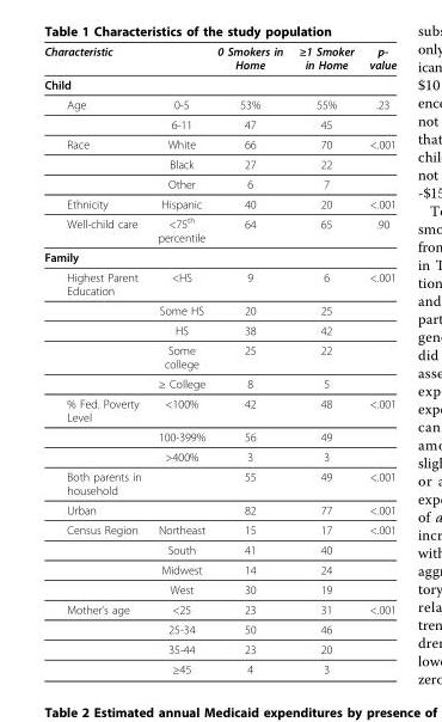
<table><thead><tr><td>Characteristic</td><td></td><td>0 Smokers in Home</td><td>≥1 Smoker in Home</td><td>p- value</td></tr></thead><tbody><tr><td colspan="5">Child</td></tr><tr><td rowspan="2">Age</td><td>0-5</td><td>53%</td><td>55%</td><td>.23</td></tr><tr><td>6-11</td><td>47</td><td>45</td><td></td></tr><tr><td rowspan="3">Race</td><td>White</td><td>66</td><td>70</td><td>&lt;.001</td></tr><tr><td>Black</td><td>27</td><td>22</td><td></td></tr><tr><td>Other</td><td>6</td><td>7</td><td></td></tr><tr><td>Ethnicity</td><td>Hispanic</td><td>40</td><td>20</td><td>&lt;.001</td></tr><tr><td>Well-child care</td><td>&lt;75<sup>th</sup> percentile</td><td>64</td><td>65</td><td>.90</td></tr><tr><td colspan="5">Family</td></tr><tr><td rowspan="5">Highest Parent Education</td><td>&lt;HS</td><td>9</td><td>6</td><td>&lt;.001</td></tr><tr><td>Some HS</td><td>20</td><td>25</td><td></td></tr><tr><td>HS</td><td>38</td><td>42</td><td></td></tr><tr><td>Some college</td><td>25</td><td>22</td><td></td></tr><tr><td>≥ College</td><td>8</td><td>5</td><td></td></tr><tr><td rowspan="3">% Fed. Poverty Level</td><td>&lt;100%</td><td>42</td><td>48</td><td>&lt;.001</td></tr><tr><td>100-399%</td><td>56</td><td>49</td><td></td></tr><tr><td>&gt;400%</td><td>3</td><td>3</td><td></td></tr><tr><td>Both parents in household</td><td></td><td>55</td><td>49</td><td>&lt;.001</td></tr><tr><td>Urban</td><td></td><td>82</td><td>77</td><td>&lt;.001</td></tr><tr><td rowspan="4">Census Region</td><td>Northeast</td><td>15</td><td>17</td><td>&lt;.001</td></tr><tr><td>South</td><td>41</td><td>40</td><td></td></tr><tr><td>Midwest</td><td>14</td><td>24</td><td></td></tr><tr><td>West</td><td>30</td><td>19</td><td></td></tr><tr><td rowspan="4">Mother’s age</td><td>&lt;25</td><td>23</td><td>31</td><td>&lt;.001</td></tr><tr><td>25-34</td><td>50</td><td>46</td><td></td></tr><tr><td>35-44</td><td>23</td><td>20</td><td></td></tr><tr><td>≥45</td><td>4</td><td>3</td><td></td></tr></tbody></table>